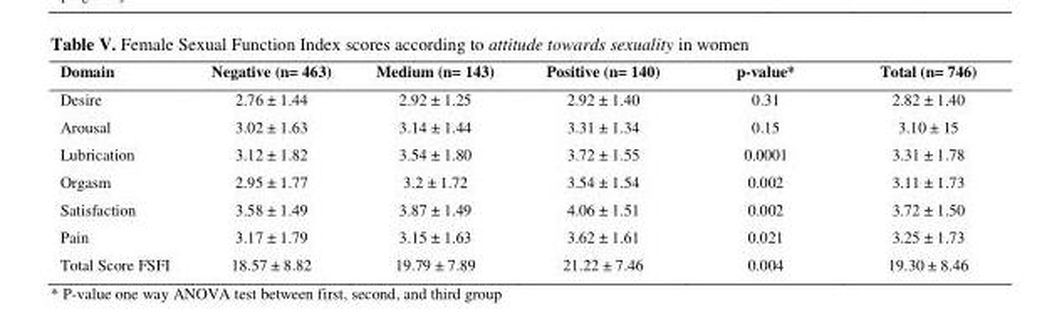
<table><thead><tr><td>Domain</td><td>Negative (n= 463)</td><td>Medium (n= 143)</td><td>Positive (n= 140)</td><td>p-value*</td><td>Total (n= 746)</td></tr></thead><tbody><tr><td>Desire</td><td>2.76 ± 1.44</td><td>2.92 ± 1.25</td><td>2.92 ± 1.40</td><td>0.31</td><td>2.82 ± 1.40</td></tr><tr><td>Arousal</td><td>3.02 ± 1.63</td><td>3.14 ± 1.44</td><td>3.31 ± 1.34</td><td>0.15</td><td>3.10 ± 15</td></tr><tr><td>Lubrication</td><td>3.12 ± 1.82</td><td>3.54 ± 1.80</td><td>3.72 ± 1.55</td><td>0.0001</td><td>3.31 ± 1.78</td></tr><tr><td>Orgasm</td><td>2.95 ± 1.77</td><td>3.2 ± 1.72</td><td>3.54 ± 1.54</td><td>0.002</td><td>3.11 ± 1.73</td></tr><tr><td>Satisfaction</td><td>3.58 ± 1.49</td><td>3.87 ± 1.49</td><td>4.06 ± 1.51</td><td>0.002</td><td>3.72 ± 1.50</td></tr><tr><td>Pain</td><td>3.17 ± 1.79</td><td>3.15 ± 1.63</td><td>3.62 ± 1.61</td><td>0.021</td><td>3.25 ± 1.73</td></tr><tr><td>Total Score FSFI</td><td>18.57 ± 8.82</td><td>19.79 ± 7.89</td><td>21.22 ± 7.46</td><td>0.004</td><td>19.30 ± 8.46</td></tr></tbody></table>